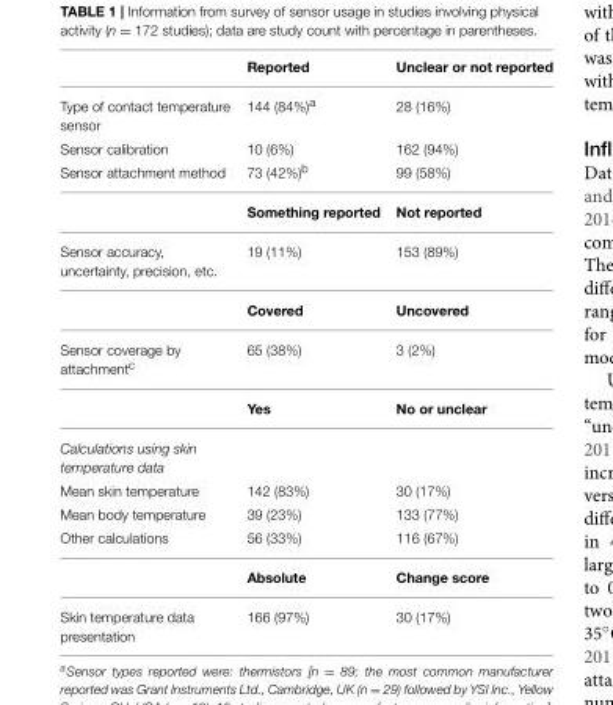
<table><thead><tr><td></td><td>Reported</td><td>Unclear or not reported</td></tr></thead><tbody><tr><td>Type of contact temperature sensor</td><td>144 (84%)<sup>a</sup></td><td>28 (16%)</td></tr><tr><td>Sensor calibration</td><td>10 (6%)</td><td>162 (94%)</td></tr><tr><td rowspan="2">Sensor attachment method</td><td>73 (42%)<sup>b</sup></td><td>99 (58%)</td></tr><tr><td>Something reported</td><td>Not reported</td></tr><tr><td rowspan="2">Sensor accuracy, uncertainty, precision, etc.</td><td>19 (11%)</td><td>153 (89%)</td></tr><tr><td>Covered</td><td>Uncovered</td></tr><tr><td rowspan="2">Sensor coverage by attachment<sup>c</sup></td><td>65 (38%)</td><td>3 (2%)</td></tr><tr><td>Yes</td><td>No or unclear</td></tr><tr><td colspan="3">Calculations using skin temperature data</td></tr><tr><td>Mean skin temperature</td><td>142 (83%)</td><td>30 (17%)</td></tr><tr><td>Mean body temperature</td><td>39 (23%)</td><td>133 (77%)</td></tr><tr><td rowspan="2">Other calculations</td><td>56 (33%)</td><td>116 (67%)</td></tr><tr><td>Absolute</td><td>Change score</td></tr><tr><td>Skin temperature data presentation</td><td>166 (97%)</td><td>30 (17%)</td></tr></tbody></table>